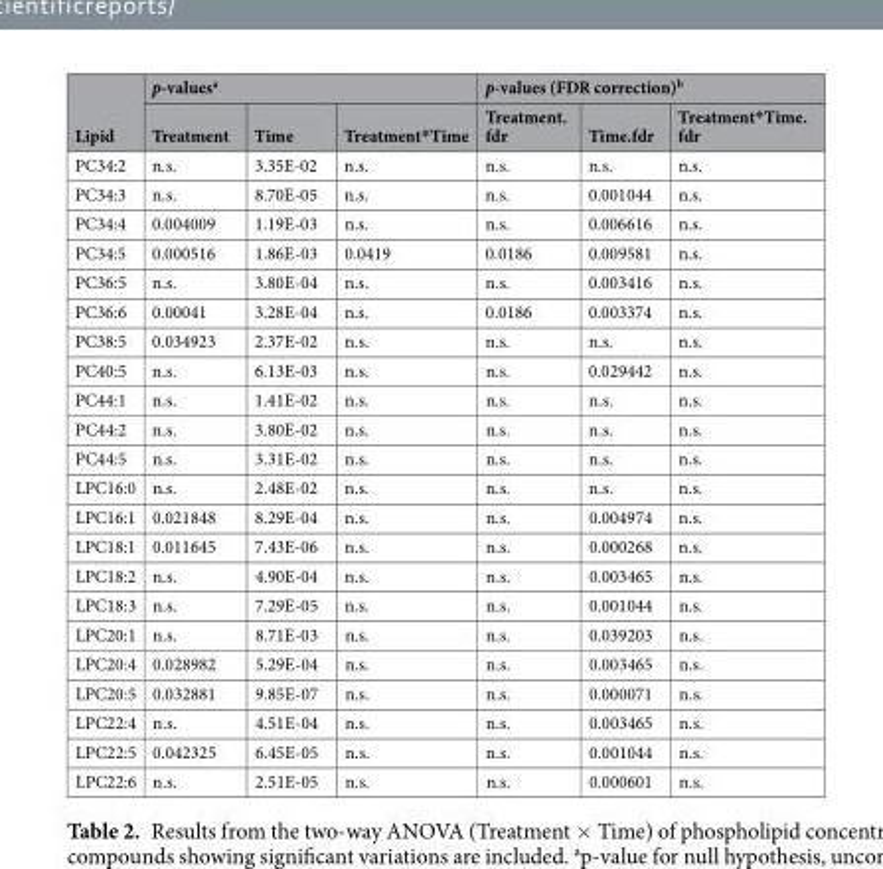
<table><thead><tr><td rowspan="2">Lipid</td><td colspan="3">p-values<sup>a</sup></td><td colspan="3">p-values (FDR correction)<sup>b</sup></td></tr><tr><td>Treatment</td><td>Time</td><td>Treatment*Time</td><td>Treatment. fdr</td><td>Time.fdr</td><td>Treatment*Time. fdr</td></tr></thead><tbody><tr><td>PC34:2</td><td>n.s.</td><td>3.35E-02</td><td>n.s.</td><td>n.s.</td><td>n.s.</td><td>n.s.</td></tr><tr><td>PC34:3</td><td>n.s.</td><td>8.70E-05</td><td>n.s.</td><td>n.s.</td><td>0.001044</td><td>n.s.</td></tr><tr><td>PC34:4</td><td>0.004009</td><td>1.19E-03</td><td>n.s.</td><td>n.s.</td><td>0.006616</td><td>n.s.</td></tr><tr><td>PC34:5</td><td>0.000516</td><td>1.86E-03</td><td>0.0419</td><td>0.0186</td><td>0.009581</td><td>n.s.</td></tr><tr><td>PC36:5</td><td>n.s.</td><td>3.80E-04</td><td>n.s.</td><td>n.s.</td><td>0.003416</td><td>n.s.</td></tr><tr><td>PC36:6</td><td>0.00041</td><td>3.28E-04</td><td>n.s.</td><td>0.0186</td><td>0.003374</td><td>n.s.</td></tr><tr><td>PC38:5</td><td>0.034923</td><td>2.37E-02</td><td>n.s.</td><td>n.s.</td><td>n.s.</td><td>n.s.</td></tr><tr><td>PC40:5</td><td>n.s.</td><td>6.13E-03</td><td>n.s.</td><td>n.s.</td><td>0.029442</td><td>n.s.</td></tr><tr><td>PC44:1</td><td>n.s.</td><td>1.41E-02</td><td>n.s.</td><td>n.s.</td><td>n.s.</td><td>n.s.</td></tr><tr><td>PC44:2</td><td>n.s.</td><td>3.80E-02</td><td>n.s.</td><td>n.s.</td><td>n.s.</td><td>n.s.</td></tr><tr><td>PC44:5</td><td>n.s.</td><td>3.31E-02</td><td>n.s.</td><td>n.s.</td><td>n.s.</td><td>n.s.</td></tr><tr><td>LPC16:0</td><td>n.s.</td><td>2.48E-02</td><td>n.s.</td><td>n.s.</td><td>n.s.</td><td>n.s.</td></tr><tr><td>LPC16:1</td><td>0.021848</td><td>8.29E-04</td><td>n.s.</td><td>n.s.</td><td>0.004974</td><td>n.s.</td></tr><tr><td>LPC18:1</td><td>0.011645</td><td>7.43E-06</td><td>n.s.</td><td>n.s.</td><td>0.000268</td><td>n.s.</td></tr><tr><td>LPC18:2</td><td>n.s.</td><td>4.90E-04</td><td>n.s.</td><td>n.s.</td><td>0.003465</td><td>n.s.</td></tr><tr><td>LPC18:3</td><td>n.s.</td><td>7.29E-05</td><td>n.s.</td><td>n.s.</td><td>0.001044</td><td>n.s.</td></tr><tr><td>LPC20:1</td><td>n.s.</td><td>8.71E-03</td><td>n.s.</td><td>n.s.</td><td>0.039203</td><td>n.s.</td></tr><tr><td>LPC20:4</td><td>0.028982</td><td>5.29E-04</td><td>n.s.</td><td>n.s.</td><td>0.003465</td><td>n.s.</td></tr><tr><td>LPC20:5</td><td>0.032881</td><td>9.85E-07</td><td>n.s.</td><td>n.s.</td><td>0.000071</td><td>n.s.</td></tr><tr><td>LPC22:4</td><td>n.s.</td><td>4.51E-04</td><td>n.s.</td><td>n.s.</td><td>0.003465</td><td>n.s.</td></tr><tr><td>LPC22:5</td><td>0.042325</td><td>6.45E-05</td><td>n.s.</td><td>n.s.</td><td>0.001044</td><td>n.s.</td></tr><tr><td>LPC22:6</td><td>n.s.</td><td>2.51E-05</td><td>n.s.</td><td>n.s.</td><td>0.000601</td><td>n.s.</td></tr></tbody></table>